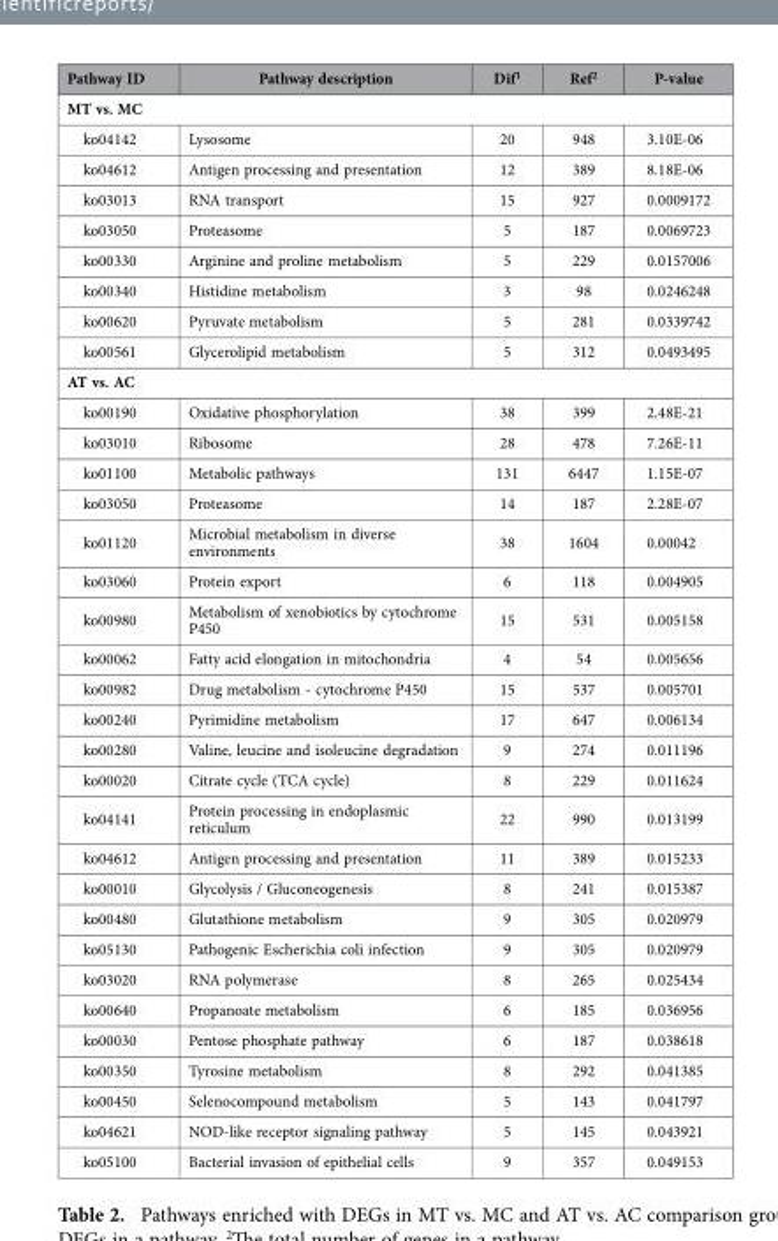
<table><thead><tr><td>Pathway ID</td><td>Pathway description</td><td>Dif<sup>1</sup></td><td>Ref<sup>2</sup></td><td>P-value</td></tr></thead><tbody><tr><td colspan="5">MT vs. MC</td></tr><tr><td>ko04142</td><td>Lysosome</td><td>20</td><td>948</td><td>3.10E-06</td></tr><tr><td>ko04612</td><td>Antigen processing and presentation</td><td>12</td><td>389</td><td>8.18E-06</td></tr><tr><td>ko03013</td><td>RNA transport</td><td>15</td><td>927</td><td>0.0009172</td></tr><tr><td>ko03050</td><td>Proteasome</td><td>5</td><td>187</td><td>0.0069723</td></tr><tr><td>ko00330</td><td>Arginine and proline metabolism</td><td>5</td><td>229</td><td>0.0157006</td></tr><tr><td>ko00340</td><td>Histidine metabolism</td><td>3</td><td>98</td><td>0.0246248</td></tr><tr><td>ko00620</td><td>Pyruvate metabolism</td><td>5</td><td>281</td><td>0.0339742</td></tr><tr><td>ko00561</td><td>Glycerolipid metabolism</td><td>5</td><td>312</td><td>0.0493495</td></tr><tr><td colspan="5">AT vs. AC</td></tr><tr><td>ko00190</td><td>Oxidative phosphorylation</td><td>38</td><td>399</td><td>2.48E-21</td></tr><tr><td>ko03010</td><td>Ribosome</td><td>28</td><td>478</td><td>7.26E-11</td></tr><tr><td>ko01100</td><td>Metabolic pathways</td><td>131</td><td>6447</td><td>1.15E-07</td></tr><tr><td>ko03050</td><td>Proteasome</td><td>14</td><td>187</td><td>2.28E-07</td></tr><tr><td>ko01120</td><td>Microbial metabolism in diverse environments</td><td>38</td><td>1604</td><td>0.00042</td></tr><tr><td>ko03060</td><td>Protein export</td><td>6</td><td>118</td><td>0.004905</td></tr><tr><td>ko00980</td><td>Metabolism of xenobiotics by cytochrome P450</td><td>15</td><td>531</td><td>0.005158</td></tr><tr><td>ko00062</td><td>Fatty acid elongation in mitochondria</td><td>4</td><td>54</td><td>0.005656</td></tr><tr><td>ko00982</td><td>Drug metabolism - cytochrome P450</td><td>15</td><td>537</td><td>0.005701</td></tr><tr><td>ko00240</td><td>Pyrimidine metabolism</td><td>17</td><td>647</td><td>0.006134</td></tr><tr><td>ko00280</td><td>Valine, leucine and isoleucine degradation</td><td>9</td><td>274</td><td>0.011196</td></tr><tr><td>ko00020</td><td>Citrate cycle (TCA cycle)</td><td>8</td><td>229</td><td>0.011624</td></tr><tr><td>ko04141</td><td>Protein processing in endoplasmic reticulum</td><td>22</td><td>990</td><td>0.013199</td></tr><tr><td>ko04612</td><td>Antigen processing and presentation</td><td>11</td><td>389</td><td>0.015233</td></tr><tr><td>ko00010</td><td>Glycolysis / Gluconeogenesis</td><td>8</td><td>241</td><td>0.015387</td></tr><tr><td>ko00480</td><td>Glutathione metabolism</td><td>9</td><td>305</td><td>0.020979</td></tr><tr><td>ko05130</td><td>Pathogenic Escherichia coli infection</td><td>9</td><td>305</td><td>0.020979</td></tr><tr><td>ko03020</td><td>RNA polymerase</td><td>8</td><td>265</td><td>0.025434</td></tr><tr><td>ko00640</td><td>Propanoate metabolism</td><td>6</td><td>185</td><td>0.036956</td></tr><tr><td>ko00030</td><td>Pentose phosphate pathway</td><td>6</td><td>187</td><td>0.038618</td></tr><tr><td>ko00350</td><td>Tyrosine metabolism</td><td>8</td><td>292</td><td>0.041385</td></tr><tr><td>ko00450</td><td>Selenocompound metabolism</td><td>5</td><td>143</td><td>0.041797</td></tr><tr><td>ko04621</td><td>NOD-like receptor signaling pathway</td><td>5</td><td>145</td><td>0.043921</td></tr><tr><td>ko05100</td><td>Bacterial invasion of epithelial cells</td><td>9</td><td>357</td><td>0.049153</td></tr></tbody></table>